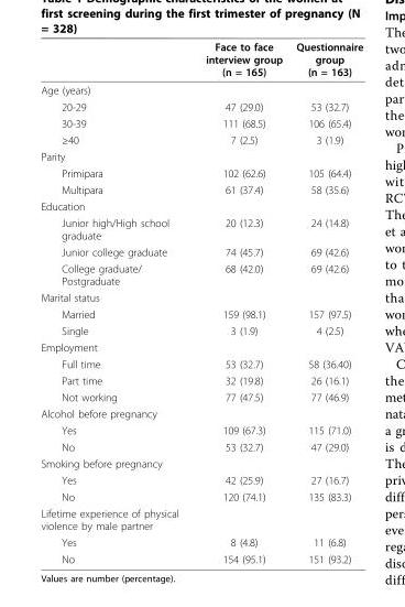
<table><thead><tr><td></td><td>Face to face interview group (n = 165)</td><td>Questionnaire group (n = 163)</td></tr></thead><tbody><tr><td colspan="3">Age (years)</td></tr><tr><td>20-29</td><td>47 (29.0)</td><td>53 (32.7)</td></tr><tr><td>30-39</td><td>111 (68.5)</td><td>106 (65.4)</td></tr><tr><td>≥40</td><td>7 (2.5)</td><td>3 (1.9)</td></tr><tr><td colspan="3">Parity</td></tr><tr><td>Primipara</td><td>102 (62.6)</td><td>105 (64.4)</td></tr><tr><td>Multipara</td><td>61 (37.4)</td><td>58 (35.6)</td></tr><tr><td colspan="3">Education</td></tr><tr><td>Junior high/High school graduate</td><td>20 (12.3)</td><td>24 (14.8)</td></tr><tr><td>Junior college graduate</td><td>74 (45.7)</td><td>69 (42.6)</td></tr><tr><td>College graduate/ Postgraduate</td><td>68 (42.0)</td><td>69 (42.6)</td></tr><tr><td colspan="3">Marital status</td></tr><tr><td>Married</td><td>159 (98.1)</td><td>157 (97.5)</td></tr><tr><td>Single</td><td>3 (1.9)</td><td>4 (2.5)</td></tr><tr><td colspan="3">Employment</td></tr><tr><td>Full time</td><td>53 (32.7)</td><td>58 (36.40)</td></tr><tr><td>Part time</td><td>32 (19.8)</td><td>26 (16.1)</td></tr><tr><td>Not working</td><td>77 (47.5)</td><td>77 (46.9)</td></tr><tr><td colspan="3">Alcohol before pregnancy</td></tr><tr><td>Yes</td><td>109 (67.3)</td><td>115 (71.0)</td></tr><tr><td>No</td><td>53 (32.7)</td><td>47 (29.0)</td></tr><tr><td colspan="3">Smoking before pregnancy</td></tr><tr><td>Yes</td><td>42 (25.9)</td><td>27 (16.7)</td></tr><tr><td>No</td><td>120 (74.1)</td><td>135 (83.3)</td></tr><tr><td colspan="3">Lifetime experience of physical violence by male partner</td></tr><tr><td>Yes</td><td>8 (4.8)</td><td>11 (6.8)</td></tr><tr><td>No</td><td>154 (95.1)</td><td>151 (93.2)</td></tr></tbody></table>